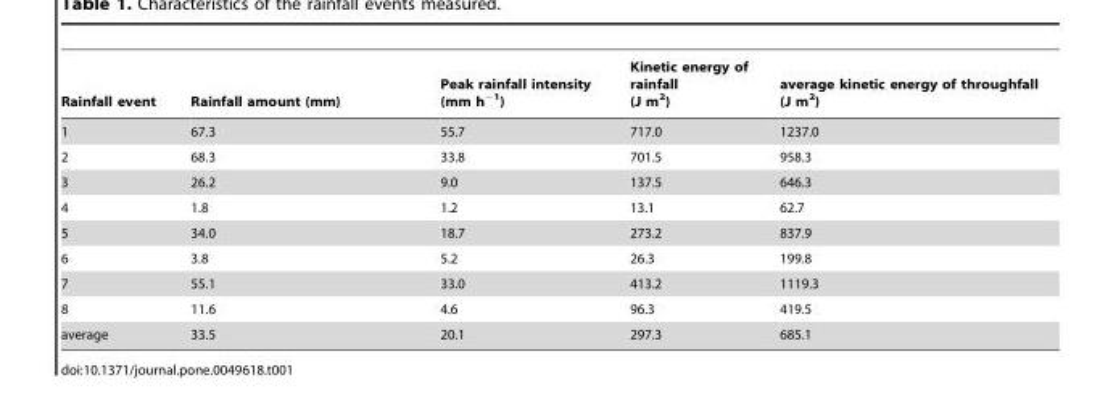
<table><thead><tr><td>Rainfall event</td><td>Rainfall amount (mm)</td><td>Peak rainfall intensity (mm h<sup>−1</sup>)</td><td>Kinetic energy of rainfall (J m<sup>2</sup>)</td><td>average kinetic energy of throughfall (J m<sup>2</sup>)</td></tr></thead><tbody><tr><td>1</td><td>67.3</td><td>55.7</td><td>717.0</td><td>1237.0</td></tr><tr><td>2</td><td>68.3</td><td>33.8</td><td>701.5</td><td>958.3</td></tr><tr><td>3</td><td>26.2</td><td>9.0</td><td>137.5</td><td>646.3</td></tr><tr><td>4</td><td>1.8</td><td>1.2</td><td>13.1</td><td>62.7</td></tr><tr><td>5</td><td>34.0</td><td>18.7</td><td>273.2</td><td>837.9</td></tr><tr><td>6</td><td>3.8</td><td>5.2</td><td>26.3</td><td>199.8</td></tr><tr><td>7</td><td>55.1</td><td>33.0</td><td>413.2</td><td>1119.3</td></tr><tr><td>8</td><td>11.6</td><td>4.6</td><td>96.3</td><td>419.5</td></tr><tr><td>average</td><td>33.5</td><td>20.1</td><td>297.3</td><td>685.1</td></tr></tbody></table>